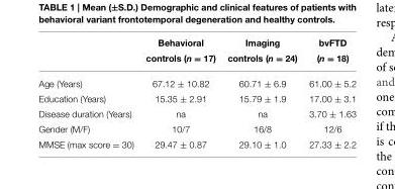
<table><thead><tr><td></td><td>Behavioral controls (n = 17)</td><td>Imaging controls (n = 24)</td><td>bvFTD (n = 18)</td></tr></thead><tbody><tr><td>Age (Years)</td><td>67.12 ± 10.82</td><td>60.71 ± 6.9</td><td>61.00 ± 5.2</td></tr><tr><td>Education (Years)</td><td>15.35 ± 2.91</td><td>15.79 ± 1.9</td><td>17.00 ± 3.1</td></tr><tr><td>Disease duration (Years)</td><td>na</td><td>na</td><td>3.70 ± 1.63</td></tr><tr><td>Gender (M/F)</td><td>10/7</td><td>16/8</td><td>12/6</td></tr><tr><td>MMSE (max score = 30)</td><td>29.47 ± 0.87</td><td>29.10 ± 1.0</td><td>27.33 ± 2.2</td></tr></tbody></table>